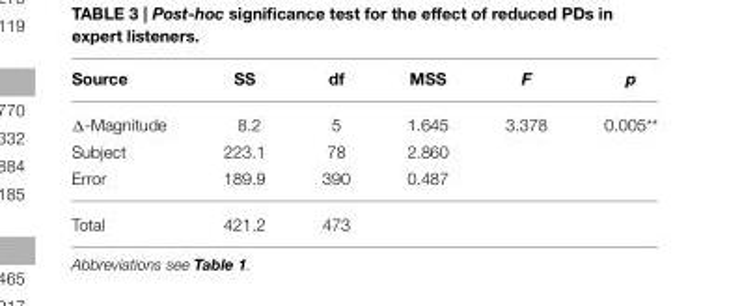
<table><thead><tr><td>Source</td><td>SS</td><td>df</td><td>MSS</td><td>F</td><td>p</td></tr></thead><tbody><tr><td>Δ-Magnitude</td><td>8.2</td><td>5</td><td>1.645</td><td>3.378</td><td>0.005**</td></tr><tr><td>Subject</td><td>223.1</td><td>78</td><td>2.860</td><td></td><td></td></tr><tr><td>Error</td><td>189.9</td><td>390</td><td>0.487</td><td></td><td></td></tr><tr><td>Total</td><td>421.2</td><td>473</td><td></td><td></td><td></td></tr></tbody></table>